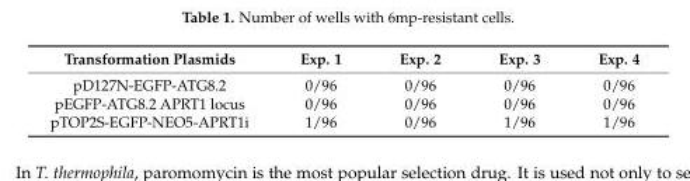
<table><thead><tr><td>Transformation Plasmids</td><td>Exp. 1</td><td>Exp. 2</td><td>Exp. 3</td><td>Exp. 4</td></tr></thead><tbody><tr><td>pD127N-EGFP-ATG8.2</td><td>0/96</td><td>0/96</td><td>0/96</td><td>0/96</td></tr><tr><td>pEGFP-ATG8.2 APRT1 locus</td><td>0/96</td><td>0/96</td><td>0/96</td><td>0/96</td></tr><tr><td>pTOP2S-EGFP-NEO5-APRT1i</td><td>1/96</td><td>0/96</td><td>1/96</td><td>1/96</td></tr></tbody></table>